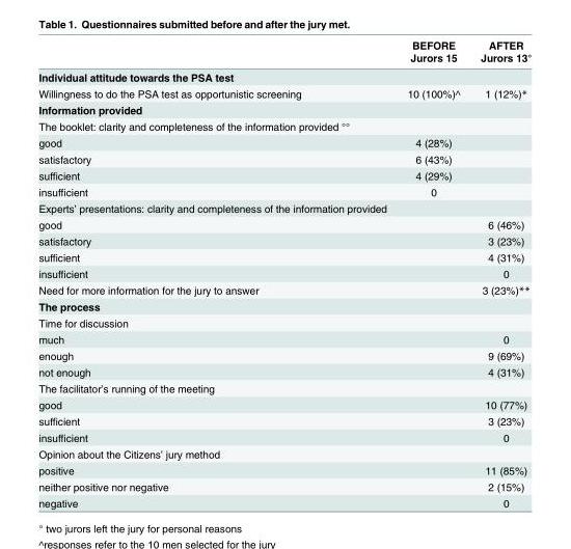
<table><thead><tr><td rowspan="2"></td><td rowspan="2">BEFORE Jurors 15</td><td rowspan="2">AFTER Jurors 13°</td></tr><tr></tr></thead><tbody><tr><td colspan="3">Individual attitude towards the PSA test</td></tr><tr><td>Willingness to do the PSA test as opportunistic screening</td><td>10 (100%)^</td><td>1 (12%)*</td></tr><tr><td colspan="3">Information provided</td></tr><tr><td colspan="3">The booklet: clarity and completeness of the information provided °°</td></tr><tr><td>good</td><td>4 (28%)</td><td></td></tr><tr><td>satisfactory</td><td>6 (43%)</td><td></td></tr><tr><td>sufficient</td><td>4 (29%)</td><td></td></tr><tr><td>insufficient</td><td>0</td><td></td></tr><tr><td colspan="3">Experts’ presentations: clarity and completeness of the information provided</td></tr><tr><td>good</td><td></td><td>6 (46%)</td></tr><tr><td>satisfactory</td><td></td><td>3 (23%)</td></tr><tr><td>sufficient</td><td></td><td>4 (31%)</td></tr><tr><td>insufficient</td><td></td><td>0</td></tr><tr><td>Need for more information for the jury to answer</td><td></td><td>3 (23%)**</td></tr><tr><td colspan="3">The process</td></tr><tr><td colspan="3">Time for discussion</td></tr><tr><td>much</td><td></td><td>0</td></tr><tr><td>enough</td><td></td><td>9 (69%)</td></tr><tr><td>not enough</td><td></td><td>4 (31%)</td></tr><tr><td colspan="3">The facilitator’s running of the meeting</td></tr><tr><td>good</td><td></td><td>10 (77%)</td></tr><tr><td>sufficient</td><td></td><td>3 (23%)</td></tr><tr><td>insufficient</td><td></td><td>0</td></tr><tr><td colspan="3">Opinion about the Citizens’ jury method</td></tr><tr><td>positive</td><td></td><td>11 (85%)</td></tr><tr><td>neither positive nor negative</td><td></td><td>2 (15%)</td></tr><tr><td>negative</td><td></td><td>0</td></tr></tbody></table>